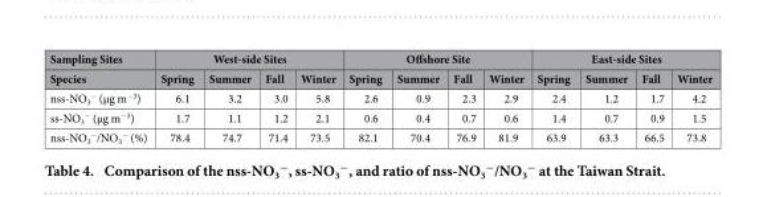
<table><thead><tr><td rowspan="2">Sampling Sites Species</td><td colspan="4">West-side Sites</td><td colspan="4">Offshore Site</td><td colspan="4">East-side Sites</td></tr><tr><td>Spring</td><td>Summer</td><td>Fall</td><td>Winter</td><td>Spring</td><td>Summer</td><td>Fall</td><td>Winter</td><td>Spring</td><td>Summer</td><td>Fall</td><td>Winter</td></tr></thead><tbody><tr><td>nss-NO<sub>3</sub> <sup>−</sup> (μg m<sup>−3</sup>)</td><td>6.1</td><td>3.2</td><td>3.0</td><td>5.8</td><td>2.6</td><td>0.9</td><td>2.3</td><td>2.9</td><td>2.4</td><td>1.2</td><td>1.7</td><td>4.2</td></tr><tr><td>ss-NO<sub>3</sub> <sup>−</sup> (μg m<sup>−3</sup>)</td><td>1.7</td><td>1.1</td><td>1.2</td><td>2.1</td><td>0.6</td><td>0.4</td><td>0.7</td><td>0.6</td><td>1.4</td><td>0.7</td><td>0.9</td><td>1.5</td></tr><tr><td>nss-NO<sub>3</sub> <sup>−</sup>/NO<sub>3</sub> <sup>−</sup> (%)</td><td>78.4</td><td>74.7</td><td>71.4</td><td>73.5</td><td>82.1</td><td>70.4</td><td>76.9</td><td>81.9</td><td>63.9</td><td>63.3</td><td>66.5</td><td>73.8</td></tr></tbody></table>